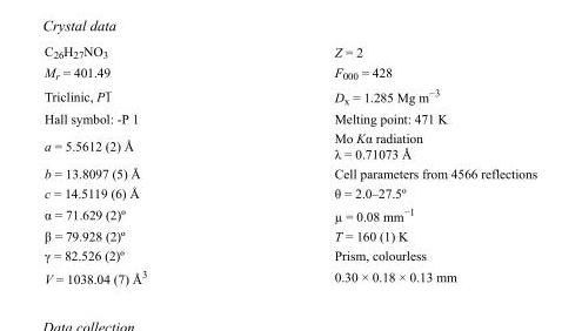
<table><tbody><tr><td>C<sub>26</sub>H<sub>27</sub>NO<sub>3</sub></td><td>Z = 2</td></tr><tr><td>M<sub>r</sub> = 401.49</td><td>F<sub>000</sub> = 428</td></tr><tr><td>Triclinic, P1</td><td>D<sub>x</sub> = 1.285 Mg m<sup>−3</sup></td></tr><tr><td>Hall symbol: -P 1</td><td>Melting point: 471 K</td></tr><tr><td>a = 5.5612 (2) Å</td><td>Mo Kα radiation λ = 0.71073 Å</td></tr><tr><td>b = 13.8097 (5) Å</td><td>Cell parameters from 4566 reflections</td></tr><tr><td>c = 14.5119 (6) Å</td><td>θ = 2.0–27.5º</td></tr><tr><td>α = 71.629 (2)º</td><td>µ = 0.08 mm<sup>−1</sup></td></tr><tr><td>β = 79.928 (2)º</td><td>T = 160 (1) K</td></tr><tr><td>γ = 82.526 (2)º</td><td>Prism, colourless</td></tr><tr><td>V = 1038.04 (7) Å<sup>3</sup></td><td>0.30 × 0.18 × 0.13 mm</td></tr></tbody></table>